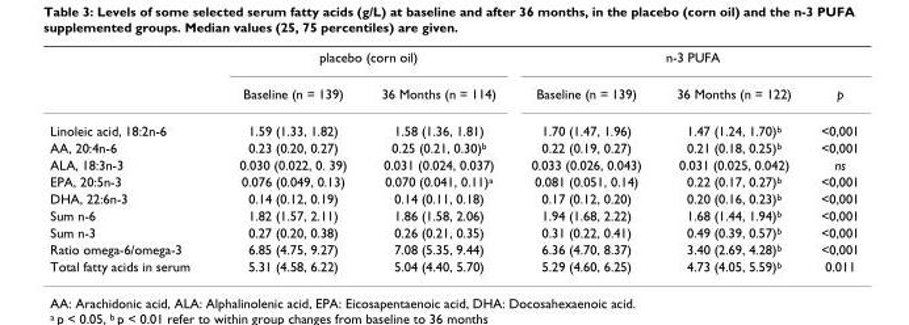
<table><thead><tr><td rowspan="2"></td><td colspan="2">placebo (corn oil)</td><td colspan="3">n-3 PUFA</td></tr><tr><td>Baseline (n = 139)</td><td>36 Months (n = 114)</td><td>Baseline (n = 139)</td><td>36 Months (n = 122)</td><td>p</td></tr></thead><tbody><tr><td>Linoleic acid, 18:2n-6</td><td>1.59 (1.33, 1.82)</td><td>1.58 (1.36, 1.81)</td><td>1.70 (1.47, 1.96)</td><td>1.47 (1.24, 1.70)<sup>b</sup></td><td>&lt;0,001</td></tr><tr><td>AA, 20:4n-6</td><td>0.23 (0.20, 0.27)</td><td>0.25 (0.21, 0.30)<sup>b</sup></td><td>0.22 (0.19, 0.27)</td><td>0.21 (0.18, 0.25)<sup>b</sup></td><td>&lt;0,001</td></tr><tr><td>ALA, 18:3n-3</td><td>0.030 (0.022, 0. 39)</td><td>0.031 (0.024, 0.037)</td><td>0.033 (0.026, 0.043)</td><td>0.031 (0.025, 0.042)</td><td>ns</td></tr><tr><td>EPA, 20:5n-3</td><td>0.076 (0.049, 0.13)</td><td>0.070 (0.041, 0.11)<sup>a</sup></td><td>0.081 (0.051, 0.14)</td><td>0.22 (0.17, 0.27)<sup>b</sup></td><td>&lt;0,001</td></tr><tr><td>DHA, 22:6n-3</td><td>0.14 (0.12, 0.19)</td><td>0.14 (0.11, 0.18)</td><td>0.17 (0.12, 0.20)</td><td>0.20 (0.16, 0.23)<sup>b</sup></td><td>&lt;0,001</td></tr><tr><td>Sum n-6</td><td>1.82 (1.57, 2.11)</td><td>1.86 (1.58, 2.06)</td><td>1.94 (1.68, 2.22)</td><td>1.68 (1.44, 1.94)<sup>b</sup></td><td>&lt;0,001</td></tr><tr><td>Sum n-3</td><td>0.27 (0.20, 0.38)</td><td>0.26 (0.21, 0.35)</td><td>0.31 (0.22, 0.41)</td><td>0.49 (0.39, 0.57)<sup>b</sup></td><td>&lt;0,001</td></tr><tr><td>Ratio omega-6/omega-3</td><td>6.85 (4.75, 9.27)</td><td>7.08 (5.35, 9.44)</td><td>6.36 (4.70, 8.37)</td><td>3.40 (2.69, 4.28)<sup>b</sup></td><td>&lt;0,001</td></tr><tr><td>Total fatty acids in serum</td><td>5.31 (4.58, 6.22)</td><td>5.04 (4.40, 5.70)</td><td>5.29 (4.60, 6.25)</td><td>4.73 (4.05, 5.59)<sup>b</sup></td><td>0.011</td></tr></tbody></table>